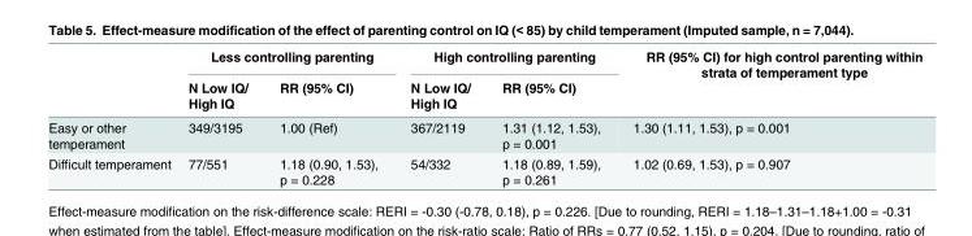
<table><thead><tr><td rowspan="2"></td><td colspan="2">Less controlling parenting</td><td colspan="2">High controlling parenting</td><td rowspan="2">RR (95% CI) for high control parenting within strata of temperament type</td></tr><tr><td>N Low IQ/ High IQ</td><td>RR (95% CI)</td><td>N Low IQ/ High IQ</td><td>RR (95% CI)</td></tr></thead><tbody><tr><td>Easy or other temperament</td><td>349/3195</td><td>1.00 (Ref)</td><td>367/2119</td><td>1.31 (1.12, 1.53), p = 0.001</td><td>1.30 (1.11, 1.53), p = 0.001</td></tr><tr><td>Difficult temperament</td><td>77/551</td><td>1.18 (0.90, 1.53), p = 0.228</td><td>54/332</td><td>1.18 (0.89, 1.59), p = 0.261</td><td>1.02 (0.69, 1.53), p = 0.907</td></tr></tbody></table>